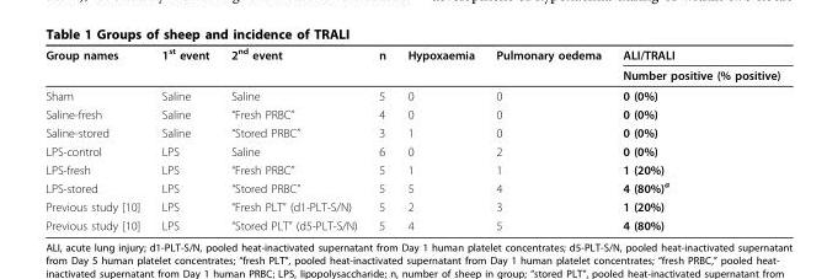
<table><thead><tr><td rowspan="2">Group names</td><td rowspan="2">1<sup>st</sup> event</td><td rowspan="2">2<sup>nd</sup> event</td><td rowspan="2">n</td><td rowspan="2">Hypoxaemia</td><td rowspan="2">Pulmonary oedema</td><td rowspan="2">ALI/TRALI Number positive (% positive)</td></tr><tr></tr></thead><tbody><tr><td>Sham</td><td>Saline</td><td>Saline</td><td>5</td><td>0</td><td>0</td><td>0 (0%)</td></tr><tr><td>Saline-fresh</td><td>Saline</td><td>“Fresh PRBC”</td><td>4</td><td>0</td><td>0</td><td>0 (0%)</td></tr><tr><td>Saline-stored</td><td>Saline</td><td>“Stored PRBC”</td><td>3</td><td>1</td><td>0</td><td>0 (0%)</td></tr><tr><td>LPS-control</td><td>LPS</td><td>Saline</td><td>6</td><td>0</td><td>2</td><td>0 (0%)</td></tr><tr><td>LPS-fresh</td><td>LPS</td><td>“Fresh PRBC”</td><td>5</td><td>1</td><td>1</td><td>1 (20%)</td></tr><tr><td>LPS-stored</td><td>LPS</td><td>“Stored PRBC”</td><td>5</td><td>5</td><td>4</td><td>4 (80%)<sup>a</sup></td></tr><tr><td>Previous study [10]</td><td>LPS</td><td>“Fresh PLT” (d1-PLT-S/N)</td><td>5</td><td>2</td><td>3</td><td>1 (20%)</td></tr><tr><td>Previous study [10]</td><td>LPS</td><td>“Stored PLT” (d5-PLT-S/N)</td><td>5</td><td>4</td><td>5</td><td>4 (80%)</td></tr></tbody></table>